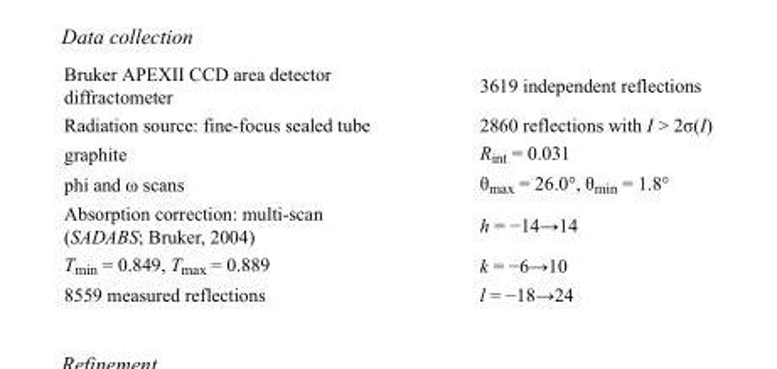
<table><tbody><tr><td>Bruker APEXII CCD area detector diffractometer</td><td>3619 independent reflections</td></tr><tr><td>Radiation source: fine-focus sealed tube</td><td>2860 reflections with I &gt; 2σ(I)</td></tr><tr><td>graphite</td><td>R<sub>int</sub> = 0.031</td></tr><tr><td>phi and ω scans</td><td>θ<sub>max</sub> = 26.0°, θ<sub>min</sub> = 1.8°</td></tr><tr><td>Absorption correction: multi-scan (SADABS; Bruker, 2004)</td><td>h = −14→14</td></tr><tr><td>T<sub>min</sub> = 0.849, T<sub>max</sub> = 0.889</td><td>k = −6→10</td></tr><tr><td>8559 measured reflections</td><td>l = −18→24</td></tr></tbody></table>